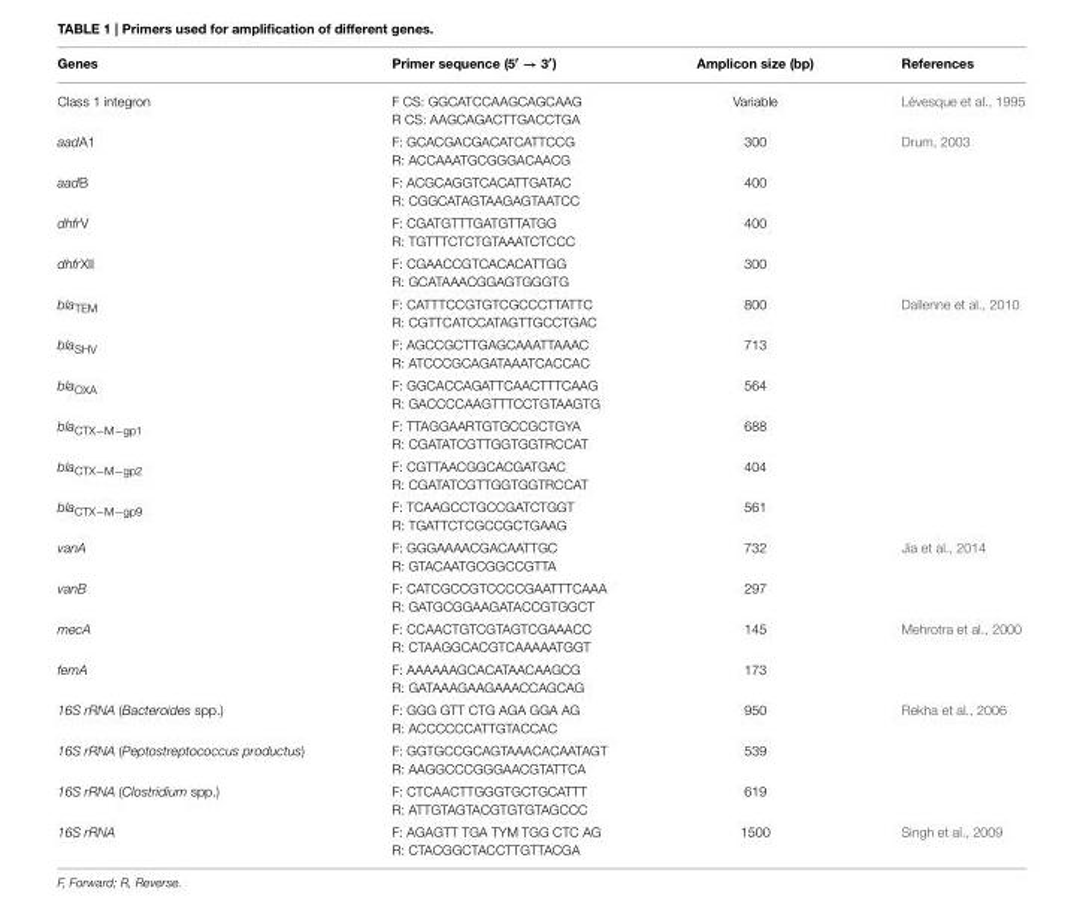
<table><thead><tr><td>Genes</td><td>Primer sequence (5′ → 3′)</td><td>Amplicon size (bp)</td><td>References</td></tr></thead><tbody><tr><td>Class 1 integron</td><td>F CS: GGCATCCAAGCAGCAAG R CS: AAGCAGACTTGACCTGA</td><td>Variable</td><td>Lévesque et al., 1995</td></tr><tr><td>aadA1</td><td>F: GCACGACGACATCATTCCG R: ACCAAATGCGGGACAACG</td><td>300</td><td>Drum, 2003</td></tr><tr><td>aadB</td><td>F: ACGCAGGTCACATTGATAC R: CGGCATAGTAAGAGTAATCC</td><td>400</td><td></td></tr><tr><td>dhfrV</td><td>F: CGATGTTTGATGTTATGG R: TGTTTCTCTGTAAATCTCCC</td><td>400</td><td></td></tr><tr><td>dhfrXII</td><td>F: CGAACCGTCACACATTGG R: GCATAAACGGAGTGGGTG</td><td>300</td><td></td></tr><tr><td>bla<sub>TEM</sub></td><td>F: CATTTCCGTGTCGCCCTTATTC R: CGTTCATCCATAGTTGCCTGAC</td><td>800</td><td>Dallenne et al., 2010</td></tr><tr><td>bla<sub>SHV</sub></td><td>F: AGCCGCTTGAGCAAATTAAAC R: ATCCCGCAGATAAATCACCAC</td><td>713</td><td></td></tr><tr><td>bla<sub>OXA</sub></td><td>F: GGCACCAGATTCAACTTTCAAG R: GACCCCAAGTTTCCTGTAAGTG</td><td>564</td><td></td></tr><tr><td>bla<sub>CTX−M−gp1</sub></td><td>F: TTAGGAARTGTGCCGCTGYA R: CGATATCGTTGGTGGTRCCAT</td><td>688</td><td></td></tr><tr><td>bla<sub>CTX−M−gp2</sub></td><td>F: CGTTAACGGCACGATGAC R: CGATATCGTTGGTGGTRCCAT</td><td>404</td><td></td></tr><tr><td>bla<sub>CTX−M−gp9</sub></td><td>F: TCAAGCCTGCCGATCTGGT R: TGATTCTCGCCGCTGAAG</td><td>561</td><td></td></tr><tr><td>vanA</td><td>F: GGGAAAACGACAATTGC R: GTACAATGCGGCCGTTA</td><td>732</td><td>Jia et al., 2014</td></tr><tr><td>vanB</td><td>F: CATCGCCGTCCCCGAATTTCAAA R: GATGCGGAAGATACCGTGGCT</td><td>297</td><td></td></tr><tr><td>mecA</td><td>F: CCAACTGTCGTAGTCGAAACC R: CTAAGGCACGTCAAAAATGGT</td><td>145</td><td>Mehrotra et al., 2000</td></tr><tr><td>femA</td><td>F: AAAAAAGCACATAACAAGCG R: GATAAAGAAGAAACCAGCAG</td><td>173</td><td></td></tr><tr><td>16S rRNA (Bacteroides spp.)</td><td>F: GGG GTT CTG AGA GGA AG R: ACCCCCCATTGTACCAC</td><td>950</td><td>Rekha et al., 2006</td></tr><tr><td>16S rRNA (Peptostreptococcus productus)</td><td>F: GGTGCCGCAGTAAACACAATAGT R: AAGGCCCGGGAACGTATTCA</td><td>539</td><td></td></tr><tr><td>16S rRNA (Clostridium spp.)</td><td>F: CTCAACTTGGGTGCTGCATTT R: ATTGTAGTACGTGTGTAGCCC</td><td>619</td><td></td></tr><tr><td>16S rRNA</td><td>F: AGAGTT TGA TYM TGG CTC AG R: CTACGGCTACCTTGTTACGA</td><td>1500</td><td>Singh et al., 2009</td></tr></tbody></table>